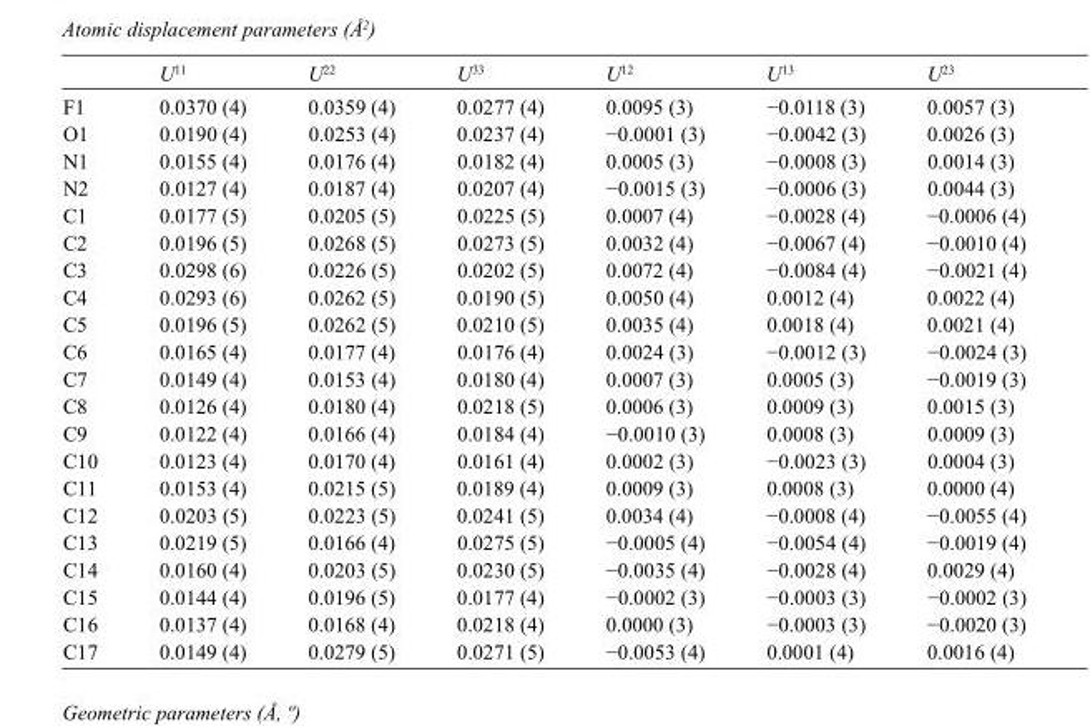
<table><thead><tr><td></td><td>U<sup>11</sup></td><td>U<sup>22</sup></td><td>U<sup>33</sup></td><td>U<sup>12</sup></td><td>U<sup>13</sup></td><td>U<sup>23</sup></td></tr></thead><tbody><tr><td>F1</td><td>0.0370 (4)</td><td>0.0359 (4)</td><td>0.0277 (4)</td><td>0.0095 (3)</td><td>−0.0118 (3)</td><td>0.0057 (3)</td></tr><tr><td>O1</td><td>0.0190 (4)</td><td>0.0253 (4)</td><td>0.0237 (4)</td><td>−0.0001 (3)</td><td>−0.0042 (3)</td><td>0.0026 (3)</td></tr><tr><td>N1</td><td>0.0155 (4)</td><td>0.0176 (4)</td><td>0.0182 (4)</td><td>0.0005 (3)</td><td>−0.0008 (3)</td><td>0.0014 (3)</td></tr><tr><td>N2</td><td>0.0127 (4)</td><td>0.0187 (4)</td><td>0.0207 (4)</td><td>−0.0015 (3)</td><td>−0.0006 (3)</td><td>0.0044 (3)</td></tr><tr><td>C1</td><td>0.0177 (5)</td><td>0.0205 (5)</td><td>0.0225 (5)</td><td>0.0007 (4)</td><td>−0.0028 (4)</td><td>−0.0006 (4)</td></tr><tr><td>C2</td><td>0.0196 (5)</td><td>0.0268 (5)</td><td>0.0273 (5)</td><td>0.0032 (4)</td><td>−0.0067 (4)</td><td>−0.0010 (4)</td></tr><tr><td>C3</td><td>0.0298 (6)</td><td>0.0226 (5)</td><td>0.0202 (5)</td><td>0.0072 (4)</td><td>−0.0084 (4)</td><td>−0.0021 (4)</td></tr><tr><td>C4</td><td>0.0293 (6)</td><td>0.0262 (5)</td><td>0.0190 (5)</td><td>0.0050 (4)</td><td>0.0012 (4)</td><td>0.0022 (4)</td></tr><tr><td>C5</td><td>0.0196 (5)</td><td>0.0262 (5)</td><td>0.0210 (5)</td><td>0.0035 (4)</td><td>0.0018 (4)</td><td>0.0021 (4)</td></tr><tr><td>C6</td><td>0.0165 (4)</td><td>0.0177 (4)</td><td>0.0176 (4)</td><td>0.0024 (3)</td><td>−0.0012 (3)</td><td>−0.0024 (3)</td></tr><tr><td>C7</td><td>0.0149 (4)</td><td>0.0153 (4)</td><td>0.0180 (4)</td><td>0.0007 (3)</td><td>0.0005 (3)</td><td>−0.0019 (3)</td></tr><tr><td>C8</td><td>0.0126 (4)</td><td>0.0180 (4)</td><td>0.0218 (5)</td><td>0.0006 (3)</td><td>0.0009 (3)</td><td>0.0015 (3)</td></tr><tr><td>C9</td><td>0.0122 (4)</td><td>0.0166 (4)</td><td>0.0184 (4)</td><td>−0.0010 (3)</td><td>0.0008 (3)</td><td>0.0009 (3)</td></tr><tr><td>C10</td><td>0.0123 (4)</td><td>0.0170 (4)</td><td>0.0161 (4)</td><td>0.0002 (3)</td><td>−0.0023 (3)</td><td>0.0004 (3)</td></tr><tr><td>C11</td><td>0.0153 (4)</td><td>0.0215 (5)</td><td>0.0189 (4)</td><td>0.0009 (3)</td><td>0.0008 (3)</td><td>0.0000 (4)</td></tr><tr><td>C12</td><td>0.0203 (5)</td><td>0.0223 (5)</td><td>0.0241 (5)</td><td>0.0034 (4)</td><td>−0.0008 (4)</td><td>−0.0055 (4)</td></tr><tr><td>C13</td><td>0.0219 (5)</td><td>0.0166 (4)</td><td>0.0275 (5)</td><td>−0.0005 (4)</td><td>−0.0054 (4)</td><td>−0.0019 (4)</td></tr><tr><td>C14</td><td>0.0160 (4)</td><td>0.0203 (5)</td><td>0.0230 (5)</td><td>−0.0035 (4)</td><td>−0.0028 (4)</td><td>0.0029 (4)</td></tr><tr><td>C15</td><td>0.0144 (4)</td><td>0.0196 (5)</td><td>0.0177 (4)</td><td>−0.0002 (3)</td><td>−0.0003 (3)</td><td>−0.0002 (3)</td></tr><tr><td>C16</td><td>0.0137 (4)</td><td>0.0168 (4)</td><td>0.0218 (4)</td><td>0.0000 (3)</td><td>−0.0003 (3)</td><td>−0.0020 (3)</td></tr><tr><td>C17</td><td>0.0149 (4)</td><td>0.0279 (5)</td><td>0.0271 (5)</td><td>−0.0053 (4)</td><td>0.0001 (4)</td><td>0.0016 (4)</td></tr></tbody></table>